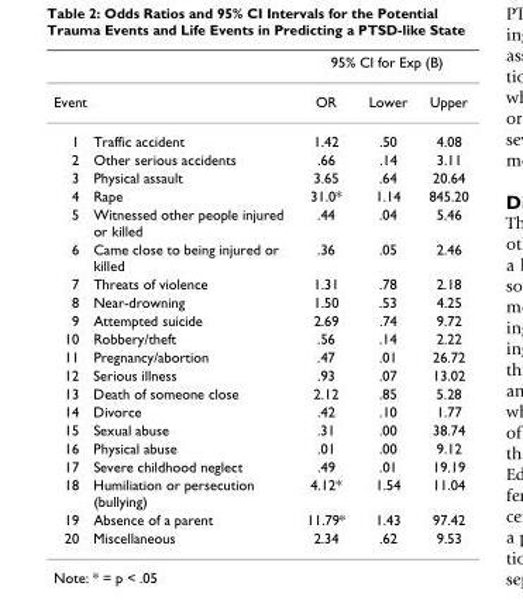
<table><thead><tr><td></td><td></td><td colspan="3">95% CI for Exp (B)</td></tr><tr><td colspan="2">Event</td><td>OR</td><td>Lower</td><td>Upper</td></tr></thead><tbody><tr><td>1</td><td>Traffic accident</td><td>1.42</td><td>.50</td><td>4.08</td></tr><tr><td>2</td><td>Other serious accidents</td><td>.66</td><td>.14</td><td>3.11</td></tr><tr><td>3</td><td>Physical assault</td><td>3.65</td><td>.64</td><td>20.64</td></tr><tr><td>4</td><td>Rape</td><td>31.0*</td><td>1.14</td><td>845.20</td></tr><tr><td>5</td><td>Witnessed other people injured or killed</td><td>.44</td><td>.04</td><td>5.46</td></tr><tr><td>6</td><td>Came close to being injured or killed</td><td>.36</td><td>.05</td><td>2.46</td></tr><tr><td>7</td><td>Threats of violence</td><td>1.31</td><td>.78</td><td>2.18</td></tr><tr><td>8</td><td>Near-drowning</td><td>1.50</td><td>.53</td><td>4.25</td></tr><tr><td>9</td><td>Attempted suicide</td><td>2.69</td><td>.74</td><td>9.72</td></tr><tr><td>10</td><td>Robbery/theft</td><td>.56</td><td>.14</td><td>2.22</td></tr><tr><td>11</td><td>Pregnancy/abortion</td><td>.47</td><td>.01</td><td>26.72</td></tr><tr><td>12</td><td>Serious illness</td><td>.93</td><td>.07</td><td>13.02</td></tr><tr><td>13</td><td>Death of someone close</td><td>2.12</td><td>.85</td><td>5.28</td></tr><tr><td>14</td><td>Divorce</td><td>.42</td><td>.10</td><td>1.77</td></tr><tr><td>15</td><td>Sexual abuse</td><td>.31</td><td>.00</td><td>38.74</td></tr><tr><td>16</td><td>Physical abuse</td><td>.01</td><td>.00</td><td>9.12</td></tr><tr><td>17</td><td>Severe childhood neglect</td><td>.49</td><td>.01</td><td>19.19</td></tr><tr><td>18</td><td>Humiliation or persecution (bullying)</td><td>4.12*</td><td>1.54</td><td>11.04</td></tr><tr><td>19</td><td>Absence of a parent</td><td>11.79*</td><td>1.43</td><td>97.42</td></tr><tr><td>20</td><td>Miscellaneous</td><td>2.34</td><td>.62</td><td>9.53</td></tr></tbody></table>